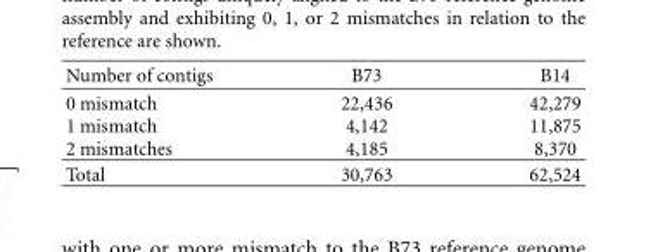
<table><thead><tr><td>Number of contigs</td><td>B73</td><td>B14</td></tr></thead><tbody><tr><td>0 mismatch</td><td>22,436</td><td>42,279</td></tr><tr><td>1 mismatch</td><td>4,142</td><td>11,875</td></tr><tr><td>2 mismatches</td><td>4,185</td><td>8,370</td></tr><tr><td>Total</td><td>30,763</td><td>62,524</td></tr></tbody></table>